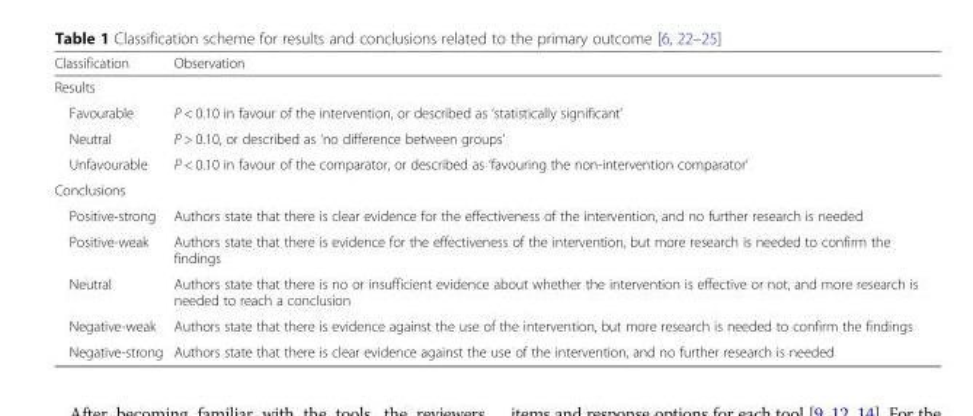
<table><thead><tr><td>Classification</td><td>Observation</td></tr></thead><tbody><tr><td colspan="2">Results</td></tr><tr><td>Favourable</td><td>P &lt; 0.10 in favour of the intervention, or described as ‘statistically significant’</td></tr><tr><td>Neutral</td><td>P &gt; 0.10, or described as ‘no difference between groups’</td></tr><tr><td>Unfavourable</td><td>P &lt; 0.10 in favour of the comparator, or described as ‘favouring the non-intervention comparator’</td></tr><tr><td colspan="2">Conclusions</td></tr><tr><td>Positive-strong</td><td>Authors state that there is clear evidence for the effectiveness of the intervention, and no further research is needed</td></tr><tr><td>Positive-weak</td><td>Authors state that there is evidence for the effectiveness of the intervention, but more research is needed to confirm the findings</td></tr><tr><td>Neutral</td><td>Authors state that there is no or insufficient evidence about whether the intervention is effective or not, and more research is needed to reach a conclusion</td></tr><tr><td>Negative-weak</td><td>Authors state that there is evidence against the use of the intervention, but more research is needed to confirm the findings</td></tr><tr><td>Negative-strong</td><td>Authors state that there is clear evidence against the use of the intervention, and no further research is needed</td></tr></tbody></table>